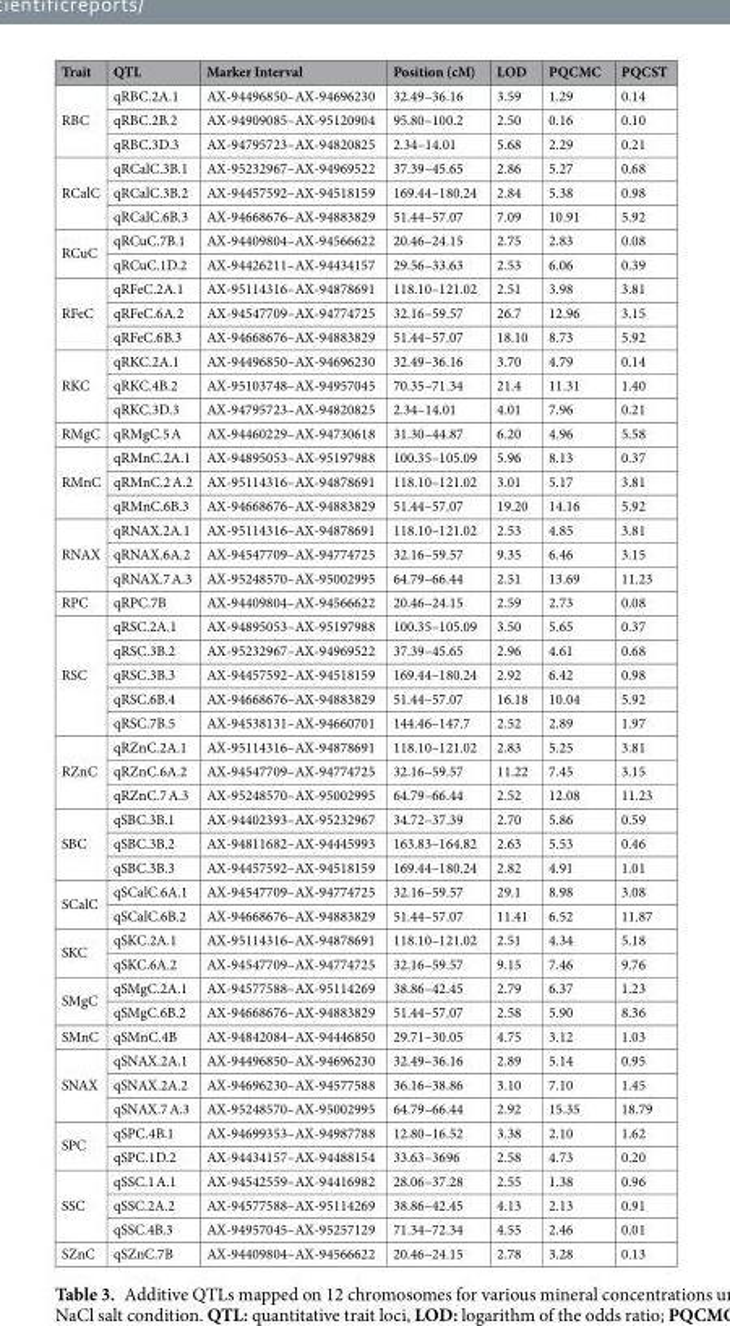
<table><thead><tr><td>Trait</td><td>QTL</td><td>Marker Interval</td><td>Position (cM)</td><td>LOD</td><td>PQCMC</td><td>PQCST</td></tr></thead><tbody><tr><td rowspan="3">RBC</td><td>qRBC.2A.1</td><td>AX-94496850–AX-94696230</td><td>32.49–36.16</td><td>3.59</td><td>1.29</td><td>0.14</td></tr><tr><td>qRBC.2B.2</td><td>AX-94909085–AX-95120904</td><td>95.80–100.2</td><td>2.50</td><td>0.16</td><td>0.10</td></tr><tr><td>qRBC.3D.3</td><td>AX-94795723–AX-94820825</td><td>2.34–14.01</td><td>5.68</td><td>2.29</td><td>0.21</td></tr><tr><td rowspan="3">RCalC</td><td>qRCalC.3B.1</td><td>AX-95232967–AX-94969522</td><td>37.39–45.65</td><td>2.86</td><td>5.27</td><td>0.68</td></tr><tr><td>qRCalC.3B.2</td><td>AX-94457592–AX-94518159</td><td>169.44–180.24</td><td>2.84</td><td>5.38</td><td>0.98</td></tr><tr><td>qRCalC.6B.3</td><td>AX-94668676–AX-94883829</td><td>51.44–57.07</td><td>7.09</td><td>10.91</td><td>5.92</td></tr><tr><td rowspan="2">RCuC</td><td>qRCuC.7B.1</td><td>AX-94409804–AX-94566622</td><td>20.46–24.15</td><td>2.75</td><td>2.83</td><td>0.08</td></tr><tr><td>qRCuC.1D.2</td><td>AX-94426211–AX-94434157</td><td>29.56–33.63</td><td>2.53</td><td>6.06</td><td>0.39</td></tr><tr><td rowspan="3">RFeC</td><td>qRFeC.2A.1</td><td>AX-95114316–AX-94878691</td><td>118.10–121.02</td><td>2.51</td><td>3.98</td><td>3.81</td></tr><tr><td>qRFeC.6A.2</td><td>AX-94547709–AX-94774725</td><td>32.16–59.57</td><td>26.7</td><td>12.96</td><td>3.15</td></tr><tr><td>qRFeC.6B.3</td><td>AX-94668676–AX-94883829</td><td>51.44–57.07</td><td>18.10</td><td>8.73</td><td>5.92</td></tr><tr><td rowspan="3">RKC</td><td>qRKC.2A.1</td><td>AX-94496850–AX-94696230</td><td>32.49–36.16</td><td>3.70</td><td>4.79</td><td>0.14</td></tr><tr><td>qRKC.4B.2</td><td>AX-95103748–AX-94957045</td><td>70.35–71.34</td><td>21.4</td><td>11.31</td><td>1.40</td></tr><tr><td>qRKC.3D.3</td><td>AX-94795723–AX-94820825</td><td>2.34–14.01</td><td>4.01</td><td>7.96</td><td>0.21</td></tr><tr><td>RMgC</td><td>qRMgC.5 A</td><td>AX-94460229–AX-94730618</td><td>31.30–44.87</td><td>6.20</td><td>4.96</td><td>5.58</td></tr><tr><td rowspan="3">RMnC</td><td>qRMnC.2A.1</td><td>AX-94895053–AX-95197988</td><td>100.35–105.09</td><td>5.96</td><td>8.13</td><td>0.37</td></tr><tr><td>qRMnC.2 A.2</td><td>AX-95114316–AX-94878691</td><td>118.10–121.02</td><td>3.01</td><td>5.17</td><td>3.81</td></tr><tr><td>qRMnC.6B.3</td><td>AX-94668676–AX-94883829</td><td>51.44–57.07</td><td>19.20</td><td>14.16</td><td>5.92</td></tr><tr><td rowspan="3">RNAX</td><td>qRNAX.2A.1</td><td>AX-95114316–AX-94878691</td><td>118.10–121.02</td><td>2.53</td><td>4.85</td><td>3.81</td></tr><tr><td>qRNAX.6A.2</td><td>AX-94547709–AX-94774725</td><td>32.16–59.57</td><td>9.35</td><td>6.46</td><td>3.15</td></tr><tr><td>qRNAX.7 A.3</td><td>AX-95248570–AX-95002995</td><td>64.79–66.44</td><td>2.51</td><td>13.69</td><td>11.23</td></tr><tr><td>RPC</td><td>qRPC.7B</td><td>AX-94409804–AX-94566622</td><td>20.46–24.15</td><td>2.59</td><td>2.73</td><td>0.08</td></tr><tr><td rowspan="5">RSC</td><td>qRSC.2A.1</td><td>AX-94895053–AX-95197988</td><td>100.35–105.09</td><td>3.50</td><td>5.65</td><td>0.37</td></tr><tr><td>qRSC.3B.2</td><td>AX-95232967–AX-94969522</td><td>37.39–45.65</td><td>2.96</td><td>4.61</td><td>0.68</td></tr><tr><td>qRSC.3B.3</td><td>AX-94457592–AX-94518159</td><td>169.44–180.24</td><td>2.92</td><td>6.42</td><td>0.98</td></tr><tr><td>qRSC.6B.4</td><td>AX-94668676–AX-94883829</td><td>51.44–57.07</td><td>16.18</td><td>10.04</td><td>5.92</td></tr><tr><td>qRSC.7B.5</td><td>AX-94538131–AX-94660701</td><td>144.46–147.7</td><td>2.52</td><td>2.89</td><td>1.97</td></tr><tr><td rowspan="3">RZnC</td><td>qRZnC.2A.1</td><td>AX-95114316–AX-94878691</td><td>118.10–121.02</td><td>2.83</td><td>5.25</td><td>3.81</td></tr><tr><td>qRZnC.6A.2</td><td>AX-94547709–AX-94774725</td><td>32.16–59.57</td><td>11.22</td><td>7.45</td><td>3.15</td></tr><tr><td>qRZnC.7 A.3</td><td>AX-95248570–AX-95002995</td><td>64.79–66.44</td><td>2.52</td><td>12.08</td><td>11.23</td></tr><tr><td rowspan="3">SBC</td><td>qSBC.3B.1</td><td>AX-94402393–AX-95232967</td><td>34.72–37.39</td><td>2.70</td><td>5.86</td><td>0.59</td></tr><tr><td>qSBC.3B.2</td><td>AX-94811682–AX-94445993</td><td>163.83–164.82</td><td>2.63</td><td>5.53</td><td>0.46</td></tr><tr><td>qSBC.3B.3</td><td>AX-94457592–AX-94518159</td><td>169.44–180.24</td><td>2.82</td><td>4.91</td><td>1.01</td></tr><tr><td rowspan="2">SCalC</td><td>qSCalC.6A.1</td><td>AX-94547709–AX-94774725</td><td>32.16–59.57</td><td>29.1</td><td>8.98</td><td>3.08</td></tr><tr><td>qSCalC.6B.2</td><td>AX-94668676–AX-94883829</td><td>51.44–57.07</td><td>11.41</td><td>6.52</td><td>11.87</td></tr><tr><td rowspan="2">SKC</td><td>qSKC.2A.1</td><td>AX-95114316–AX-94878691</td><td>118.10–121.02</td><td>2.51</td><td>4.34</td><td>5.18</td></tr><tr><td>qSKC.6A.2</td><td>AX-94547709–AX-94774725</td><td>32.16–59.57</td><td>9.15</td><td>7.46</td><td>9.76</td></tr><tr><td rowspan="2">SMgC</td><td>qSMgC.2A.1</td><td>AX-94577588–AX-95114269</td><td>38.86–42.45</td><td>2.79</td><td>6.37</td><td>1.23</td></tr><tr><td>qSMgC.6B.2</td><td>AX-94668676–AX-94883829</td><td>51.44–57.07</td><td>2.58</td><td>5.90</td><td>8.36</td></tr><tr><td>SMnC</td><td>qSMnC.4B</td><td>AX-94842084–AX-94446850</td><td>29.71–30.05</td><td>4.75</td><td>3.12</td><td>1.03</td></tr><tr><td rowspan="3">SNAX</td><td>qSNAX.2A.1</td><td>AX-94496850–AX-94696230</td><td>32.49–36.16</td><td>2.89</td><td>5.14</td><td>0.95</td></tr><tr><td>qSNAX.2A.2</td><td>AX-94696230–AX-94577588</td><td>36.16–38.86</td><td>3.10</td><td>7.10</td><td>1.45</td></tr><tr><td>qSNAX.7 A.3</td><td>AX-95248570–AX-95002995</td><td>64.79–66.44</td><td>2.92</td><td>15.35</td><td>18.79</td></tr><tr><td rowspan="2">SPC</td><td>qSPC.4B.1</td><td>AX-94699353–AX-94987788</td><td>12.80–16.52</td><td>3.38</td><td>2.10</td><td>1.62</td></tr><tr><td>qSPC.1D.2</td><td>AX-94434157–AX-94488154</td><td>33.63–3696</td><td>2.58</td><td>4.73</td><td>0.20</td></tr><tr><td rowspan="3">SSC</td><td>qSSC.1 A.1</td><td>AX-94542559–AX-94416982</td><td>28.06–37.28</td><td>2.55</td><td>1.38</td><td>0.96</td></tr><tr><td>qSSC.2A.2</td><td>AX-94577588–AX-95114269</td><td>38.86–42.45</td><td>4.13</td><td>2.13</td><td>0.91</td></tr><tr><td>qSSC.4B.3</td><td>AX-94957045–AX-95257129</td><td>71.34–72.34</td><td>4.55</td><td>2.46</td><td>0.01</td></tr><tr><td>SZnC</td><td>qSZnC.7B</td><td>AX-94409804–AX-94566622</td><td>20.46–24.15</td><td>2.78</td><td>3.28</td><td>0.13</td></tr></tbody></table>